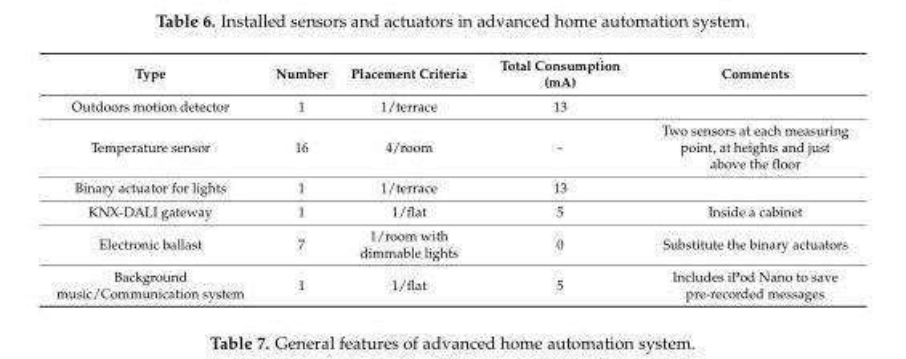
<table><thead><tr><td>Type</td><td>Number</td><td>Placement Criteria</td><td>Total Consumption (mA)</td><td>Comments</td></tr></thead><tbody><tr><td>Outdoors motion detector</td><td>1</td><td>1/terrace</td><td>13</td><td></td></tr><tr><td>Temperature sensor</td><td>16</td><td>4/room</td><td>-</td><td>Two sensors at each measuring point, at heights and just above the floor</td></tr><tr><td>Binary actuator for lights</td><td>1</td><td>1/terrace</td><td>13</td><td></td></tr><tr><td>KNX-DALI gateway</td><td>1</td><td>1/flat</td><td>5</td><td>Inside a cabinet</td></tr><tr><td>Electronic ballast</td><td>7</td><td>1/room with dimmable lights</td><td>0</td><td>Substitute the binary actuators</td></tr><tr><td>Background music/Communication system</td><td>1</td><td>1/flat</td><td>5</td><td>Includes iPod Nano to save pre-recorded messages</td></tr></tbody></table>